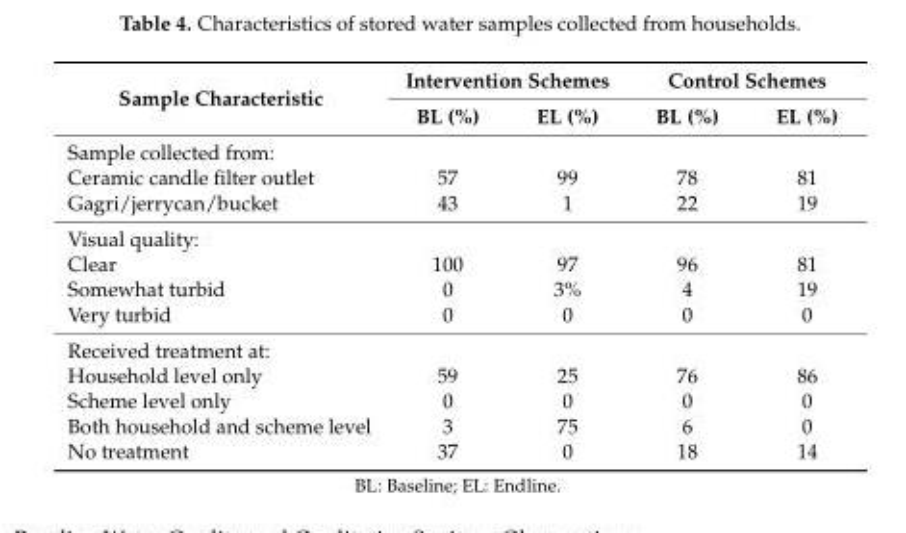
<table><thead><tr><td rowspan="2">Sample Characteristic</td><td colspan="2">Intervention Schemes</td><td colspan="2">Control Schemes</td></tr><tr><td>BL (%)</td><td>EL (%)</td><td>BL (%)</td><td>EL (%)</td></tr></thead><tbody><tr><td colspan="5">Sample collected from:</td></tr><tr><td>Ceramic candle filter outlet</td><td>57</td><td>99</td><td>78</td><td>81</td></tr><tr><td>Gagri/jerrycan/bucket</td><td>43</td><td>1</td><td>22</td><td>19</td></tr><tr><td colspan="5">Visual quality:</td></tr><tr><td>Clear</td><td>100</td><td>97</td><td>96</td><td>81</td></tr><tr><td>Somewhat turbid</td><td>0</td><td>3%</td><td>4</td><td>19</td></tr><tr><td>Very turbid</td><td>0</td><td>0</td><td>0</td><td>0</td></tr><tr><td colspan="5">Received treatment at:</td></tr><tr><td>Household level only</td><td>59</td><td>25</td><td>76</td><td>86</td></tr><tr><td>Scheme level only</td><td>0</td><td>0</td><td>0</td><td>0</td></tr><tr><td>Both household and scheme level</td><td>3</td><td>75</td><td>6</td><td>0</td></tr><tr><td>No treatment</td><td>37</td><td>0</td><td>18</td><td>14</td></tr></tbody></table>